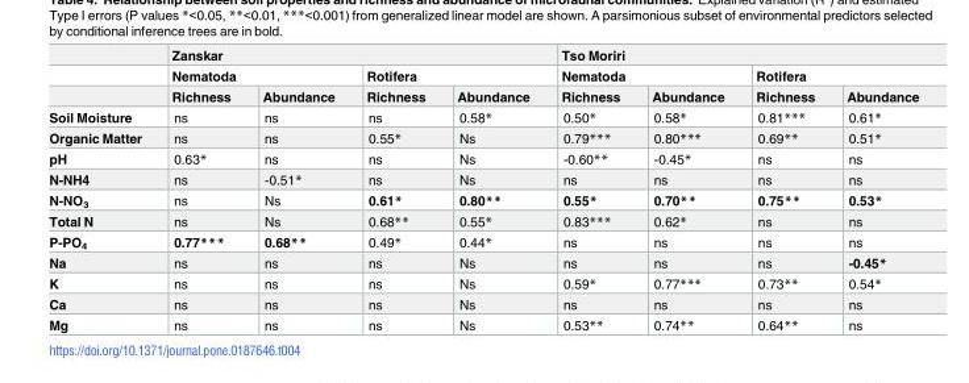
<table><thead><tr><td rowspan="3"></td><td colspan="4">Zanskar</td><td colspan="4">Tso Moriri</td></tr><tr><td colspan="2">Nematoda</td><td colspan="2">Rotifera</td><td colspan="2">Nematoda</td><td colspan="2">Rotifera</td></tr><tr><td>Richness</td><td>Abundance</td><td>Richness</td><td>Abundance</td><td>Richness</td><td>Abundance</td><td>Richness</td><td>Abundance</td></tr></thead><tbody><tr><td>Soil Moisture</td><td>ns</td><td>ns</td><td>ns</td><td>0.58*</td><td>0.50*</td><td>0.58*</td><td>0.81***</td><td>0.61*</td></tr><tr><td>Organic Matter</td><td>ns</td><td>ns</td><td>0.55*</td><td>Ns</td><td>0.79***</td><td>0.80***</td><td>0.69**</td><td>0.51*</td></tr><tr><td>pH</td><td>0.63*</td><td>ns</td><td>ns</td><td>Ns</td><td>-0.60**</td><td>-0.45*</td><td>ns</td><td>ns</td></tr><tr><td>N-NH4</td><td>ns</td><td>-0.51*</td><td>ns</td><td>Ns</td><td>ns</td><td>ns</td><td>ns</td><td>ns</td></tr><tr><td>N-NO<sub>3</sub></td><td>ns</td><td>Ns</td><td>0.61*</td><td>0.80**</td><td>0.55*</td><td>0.70**</td><td>0.75**</td><td>0.53*</td></tr><tr><td>Total N</td><td>ns</td><td>Ns</td><td>0.68**</td><td>0.55*</td><td>0.83***</td><td>0.62*</td><td>ns</td><td>ns</td></tr><tr><td>P-PO<sub>4</sub></td><td>0.77***</td><td>0.68**</td><td>0.49*</td><td>0.44*</td><td>ns</td><td>ns</td><td>ns</td><td>ns</td></tr><tr><td>Na</td><td>ns</td><td>ns</td><td>ns</td><td>Ns</td><td>ns</td><td>ns</td><td>ns</td><td>-0.45*</td></tr><tr><td>K</td><td>ns</td><td>ns</td><td>ns</td><td>Ns</td><td>0.59*</td><td>0.77***</td><td>0.73**</td><td>0.54*</td></tr><tr><td>Ca</td><td>ns</td><td>ns</td><td>ns</td><td>Ns</td><td>ns</td><td>ns</td><td>ns</td><td>ns</td></tr><tr><td>Mg</td><td>ns</td><td>ns</td><td>ns</td><td>Ns</td><td>0.53**</td><td>0.74**</td><td>0.64**</td><td>ns</td></tr></tbody></table>